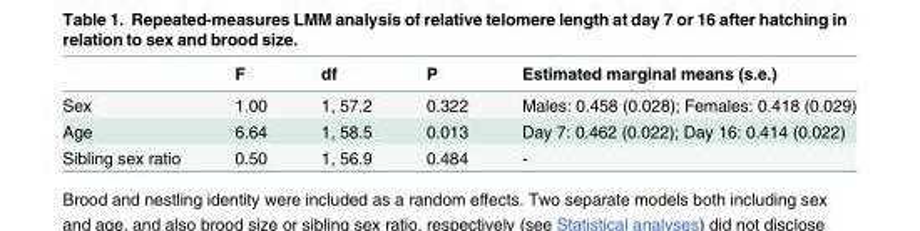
<table><thead><tr><td></td><td>F</td><td>df</td><td>P</td><td>Estimated marginal means (s.e.)</td></tr></thead><tbody><tr><td>Sex</td><td>1.00</td><td>1, 57.2</td><td>0.322</td><td>Males: 0.458 (0.028); Females: 0.418 (0.029)</td></tr><tr><td>Age</td><td>6.64</td><td>1, 58.5</td><td>0.013</td><td>Day 7: 0.462 (0.022); Day 16: 0.414 (0.022)</td></tr><tr><td>Sibling sex ratio</td><td>0.50</td><td>1, 56.9</td><td>0.484</td><td>-</td></tr></tbody></table>